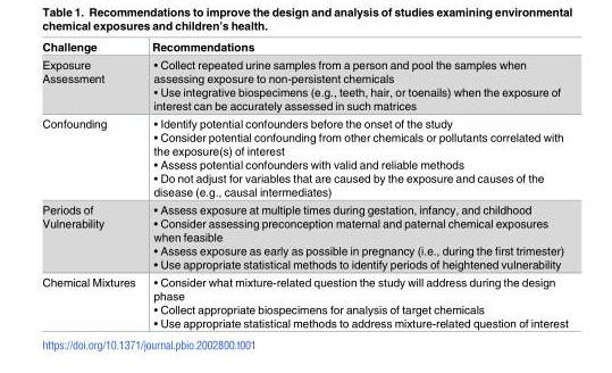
<table><thead><tr><td>Challenge</td><td>Recommendations</td></tr></thead><tbody><tr><td>Exposure Assessment</td><td>• Collect repeated urine samples from a person and pool the samples when assessing exposure to non-persistent chemicals • Use integrative biospecimens (e.g., teeth, hair, or toenails) when the exposure of interest can be accurately assessed in such matrices</td></tr><tr><td>Confounding</td><td>• Identify potential confounders before the onset of the study • Consider potential confounding from other chemicals or pollutants correlated with the exposure(s) of interest • Assess potential confounders with valid and reliable methods • Do not adjust for variables that are caused by the exposure and causes of the disease (e.g., causal intermediates)</td></tr><tr><td>Periods of Vulnerability</td><td>• Assess exposure at multiple times during gestation, infancy, and childhood • Consider assessing preconception maternal and paternal chemical exposures when feasible • Assess exposure as early as possible in pregnancy (i.e., during the first trimester) • Use appropriate statistical methods to identify periods of heightened vulnerability</td></tr><tr><td>Chemical Mixtures</td><td>• Consider what mixture-related question the study will address during the design phase • Collect appropriate biospecimens for analysis of target chemicals • Use appropriate statistical methods to address mixture-related question of interest</td></tr></tbody></table>